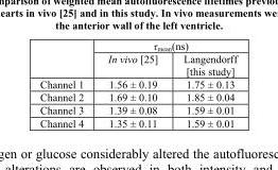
<table><thead><tr><td rowspan="2"></td><td colspan="2">τ<sub>mean</sub>(ns)</td></tr><tr><td>In vivo [25]</td><td>Langendorff [this study]</td></tr></thead><tbody><tr><td>Channel 1</td><td>1.56 ± 0.19</td><td>1.75 ± 0.13</td></tr><tr><td>Channel 2</td><td>1.69 ± 0.10</td><td>1.85 ± 0.04</td></tr><tr><td>Channel 3</td><td>1.39 ± 0.08</td><td>1.59 ± 0.01</td></tr><tr><td>Channel 4</td><td>1.35 ± 0.11</td><td>1.59 ± 0.01</td></tr></tbody></table>